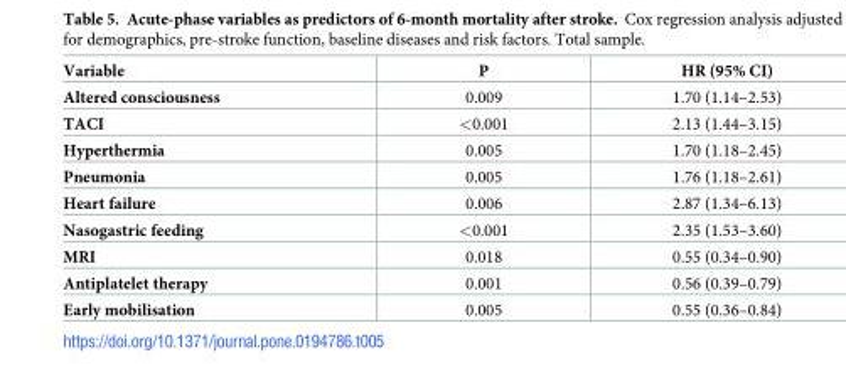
<table><thead><tr><td>Variable</td><td>P</td><td>HR (95% CI)</td></tr></thead><tbody><tr><td>Altered consciousness</td><td>0.009</td><td>1.70 (1.14–2.53)</td></tr><tr><td>TACI</td><td>&lt;0.001</td><td>2.13 (1.44–3.15)</td></tr><tr><td>Hyperthermia</td><td>0.005</td><td>1.70 (1.18–2.45)</td></tr><tr><td>Pneumonia</td><td>0.005</td><td>1.76 (1.18–2.61)</td></tr><tr><td>Heart failure</td><td>0.006</td><td>2.87 (1.34–6.13)</td></tr><tr><td>Nasogastric feeding</td><td>&lt;0.001</td><td>2.35 (1.53–3.60)</td></tr><tr><td>MRI</td><td>0.018</td><td>0.55 (0.34–0.90)</td></tr><tr><td>Antiplatelet therapy</td><td>0.001</td><td>0.56 (0.39–0.79)</td></tr><tr><td>Early mobilisation</td><td>0.005</td><td>0.55 (0.36–0.84)</td></tr></tbody></table>